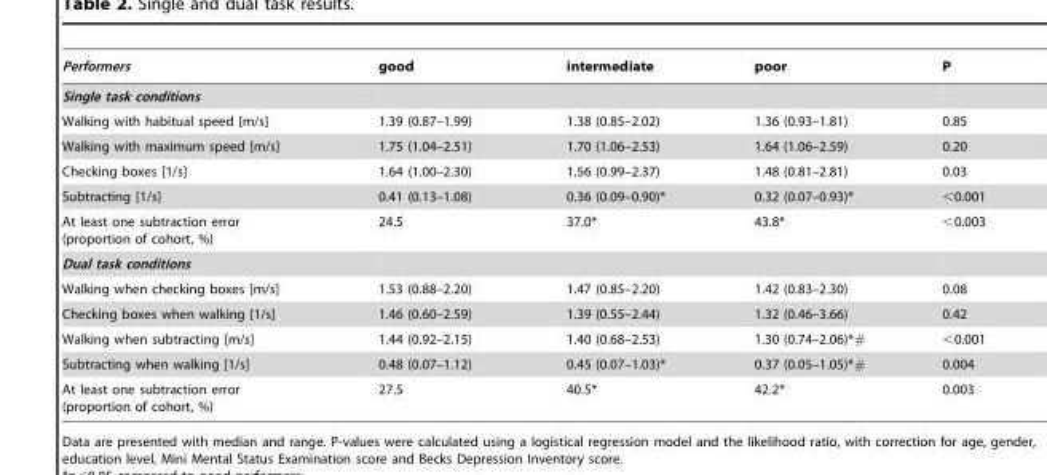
<table><thead><tr><td>Performers</td><td>good</td><td>intermediate</td><td>poor</td><td>P</td></tr></thead><tbody><tr><td colspan="5">Single task conditions</td></tr><tr><td>Walking with habitual speed [m/s]</td><td>1.39 (0.87–1.99)</td><td>1.38 (0.85–2.02)</td><td>1.36 (0.93–1.81)</td><td>0.85</td></tr><tr><td>Walking with maximum speed [m/s]</td><td>1.75 (1.04–2.51)</td><td>1.70 (1.06–2.53)</td><td>1.64 (1.06–2.59)</td><td>0.20</td></tr><tr><td>Checking boxes [1/s]</td><td>1.64 (1.00–2.30)</td><td>1.56 (0.99–2.37)</td><td>1.48 (0.81–2.81)</td><td>0.03</td></tr><tr><td>Subtracting [1/s]</td><td>0.41 (0.13–1.08)</td><td>0.36 (0.09–0.90)*</td><td>0.32 (0.07–0.93)*</td><td>&lt;0.001</td></tr><tr><td>At least one subtraction error (proportion of cohort, %)</td><td>24.5</td><td>37.0*</td><td>43.8*</td><td>&lt;0.003</td></tr><tr><td colspan="5">Dual task conditions</td></tr><tr><td>Walking when checking boxes [m/s]</td><td>1.53 (0.88–2.20)</td><td>1.47 (0.85–2.20)</td><td>1.42 (0.83–2.30)</td><td>0.08</td></tr><tr><td>Checking boxes when walking [1/s]</td><td>1.46 (0.60–2.59)</td><td>1.39 (0.55–2.44)</td><td>1.32 (0.46–3.66)</td><td>0.42</td></tr><tr><td>Walking when subtracting [m/s]</td><td>1.44 (0.92–2.15)</td><td>1.40 (0.68–2.53)</td><td>1.30 (0.74–2.06)*#</td><td>&lt;0.001</td></tr><tr><td>Subtracting when walking [1/s]</td><td>0.48 (0.07–1.12)</td><td>0.45 (0.07–1.03)*</td><td>0.37 (0.05–1.05)*#</td><td>0.004</td></tr><tr><td>At least one subtraction error (proportion of cohort, %)</td><td>27.5</td><td>40.5*</td><td>42.2*</td><td>0.003</td></tr></tbody></table>